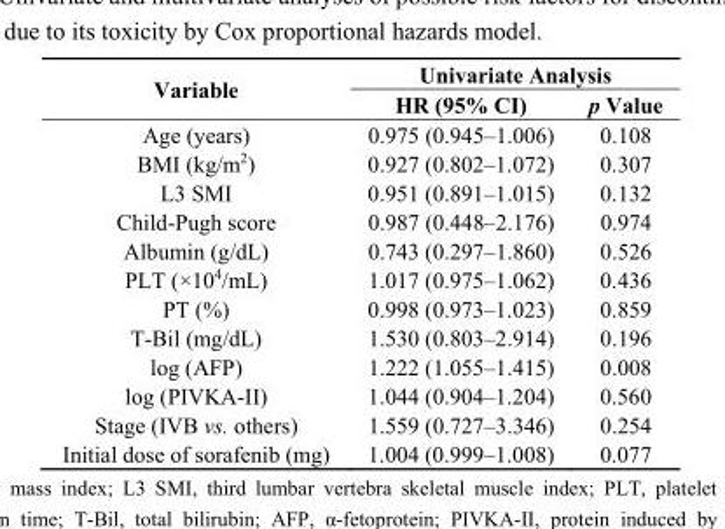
<table><thead><tr><td rowspan="2">Variable</td><td colspan="2">Univariate Analysis</td></tr><tr><td>HR (95% CI)</td><td>p Value</td></tr></thead><tbody><tr><td>Age (years)</td><td>0.975 (0.945–1.006)</td><td>0.108</td></tr><tr><td>BMI (kg/m<sup>2</sup>)</td><td>0.927 (0.802–1.072)</td><td>0.307</td></tr><tr><td>L3 SMI</td><td>0.951 (0.891–1.015)</td><td>0.132</td></tr><tr><td>Child-Pugh score</td><td>0.987 (0.448–2.176)</td><td>0.974</td></tr><tr><td>Albumin (g/dL)</td><td>0.743 (0.297–1.860)</td><td>0.526</td></tr><tr><td>PLT (×10<sup>4</sup>/mL)</td><td>1.017 (0.975–1.062)</td><td>0.436</td></tr><tr><td>PT (%)</td><td>0.998 (0.973–1.023)</td><td>0.859</td></tr><tr><td>T-Bil (mg/dL)</td><td>1.530 (0.803–2.914)</td><td>0.196</td></tr><tr><td>log (AFP)</td><td>1.222 (1.055–1.415)</td><td>0.008</td></tr><tr><td>log (PIVKA-II)</td><td>1.044 (0.904–1.204)</td><td>0.560</td></tr><tr><td>Stage (IVB vs. others)</td><td>1.559 (0.727–3.346)</td><td>0.254</td></tr><tr><td>Initial dose of sorafenib (mg)</td><td>1.004 (0.999–1.008)</td><td>0.077</td></tr></tbody></table>